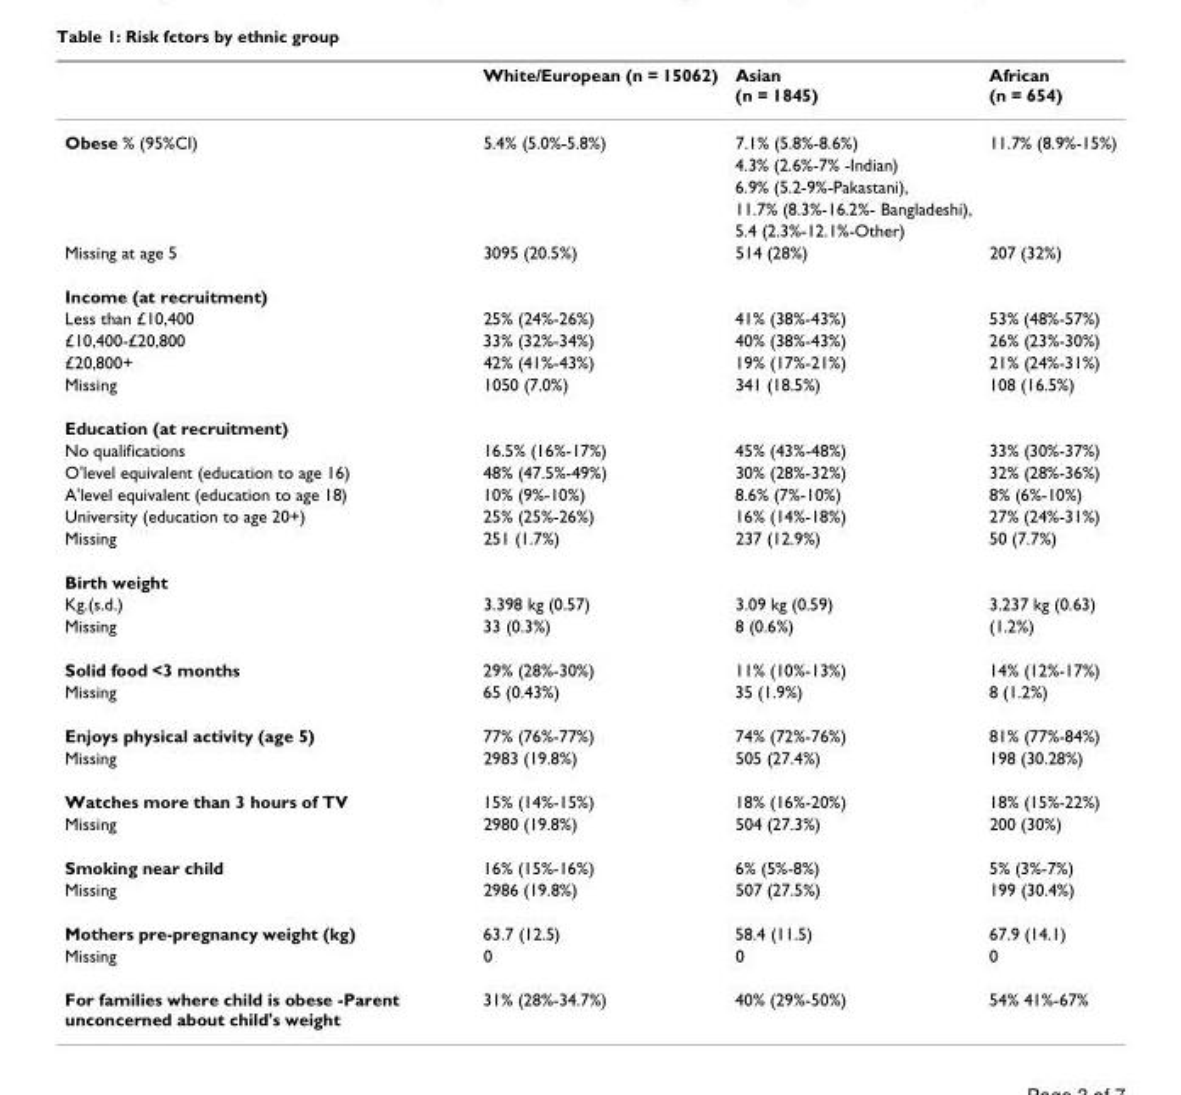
<table><thead><tr><td></td><td>White/European (n = 15062)</td><td>Asian (n = 1845)</td><td>African (n = 654)</td></tr></thead><tbody><tr><td rowspan="5">Obese % (95%CI)</td><td>5.4% (5.0%-5.8%)</td><td>7.1% (5.8%-8.6%)</td><td>11.7% (8.9%-15%)</td></tr><tr><td></td><td>4.3% (2.6%-7% -Indian)</td><td></td></tr><tr><td></td><td>6.9% (5.2-9%-Pakastani),</td><td></td></tr><tr><td></td><td>11.7% (8.3%-16.2%- Bangladeshi),</td><td></td></tr><tr><td></td><td>5.4 (2.3%-12.1%-Other)</td><td></td></tr><tr><td>Missing at age 5</td><td>3095 (20.5%)</td><td>514 (28%)</td><td>207 (32%)</td></tr><tr><td colspan="4">Income (at recruitment)</td></tr><tr><td>Less than £10,400</td><td>25% (24%-26%)</td><td>41% (38%-43%)</td><td>53% (48%-57%)</td></tr><tr><td>£10,400-£20,800</td><td>33% (32%-34%)</td><td>40% (38%-43%)</td><td>26% (23%-30%)</td></tr><tr><td>£20,800+</td><td>42% (41%-43%)</td><td>19% (17%-21%)</td><td>21% (24%-31%)</td></tr><tr><td>Missing</td><td>1050 (7.0%)</td><td>341 (18.5%)</td><td>108 (16.5%)</td></tr><tr><td colspan="4">Education (at recruitment)</td></tr><tr><td>No qualifications</td><td>16.5% (16%-17%)</td><td>45% (43%-48%)</td><td>33% (30%-37%)</td></tr><tr><td>O&#x27;level equivalent (education to age 16)</td><td>48% (47.5%-49%)</td><td>30% (28%-32%)</td><td>32% (28%-36%)</td></tr><tr><td>A&#x27;level equivalent (education to age 18)</td><td>10% (9%-10%)</td><td>8.6% (7%-10%)</td><td>8% (6%-10%)</td></tr><tr><td>University (education to age 20+)</td><td>25% (25%-26%)</td><td>16% (14%-18%)</td><td>27% (24%-31%)</td></tr><tr><td>Missing</td><td>251 (1.7%)</td><td>237 (12.9%)</td><td>50 (7.7%)</td></tr><tr><td colspan="4">Birth weight</td></tr><tr><td>Kg.(s.d.)</td><td>3.398 kg (0.57)</td><td>3.09 kg (0.59)</td><td>3.237 kg (0.63)</td></tr><tr><td>Missing</td><td>33 (0.3%)</td><td>8 (0.6%)</td><td>(1.2%)</td></tr><tr><td>Solid food &lt;3 months</td><td>29% (28%-30%)</td><td>11% (10%-13%)</td><td>14% (12%-17%)</td></tr><tr><td>Missing</td><td>65 (0.43%)</td><td>35 (1.9%)</td><td>8 (1.2%)</td></tr><tr><td>Enjoys physical activity (age 5)</td><td>77% (76%-77%)</td><td>74% (72%-76%)</td><td>81% (77%-84%)</td></tr><tr><td>Missing</td><td>2983 (19.8%)</td><td>505 (27.4%)</td><td>198 (30.28%)</td></tr><tr><td>Watches more than 3 hours of TV</td><td>15% (14%-15%)</td><td>18% (16%-20%)</td><td>18% (15%-22%)</td></tr><tr><td>Missing</td><td>2980 (19.8%)</td><td>504 (27.3%)</td><td>200 (30%)</td></tr><tr><td>Smoking near child</td><td>16% (15%-16%)</td><td>6% (5%-8%)</td><td>5% (3%-7%)</td></tr><tr><td>Missing</td><td>2986 (19.8%)</td><td>507 (27.5%)</td><td>199 (30.4%)</td></tr><tr><td>Mothers pre-pregnancy weight (kg)</td><td>63.7 (12.5)</td><td>58.4 (11.5)</td><td>67.9 (14.1)</td></tr><tr><td>Missing</td><td>0</td><td>0</td><td>0</td></tr><tr><td>For families where child is obese -Parent unconcerned about child&#x27;s weight</td><td>31% (28%-34.7%)</td><td>40% (29%-50%)</td><td>54% 41%-67%</td></tr></tbody></table>